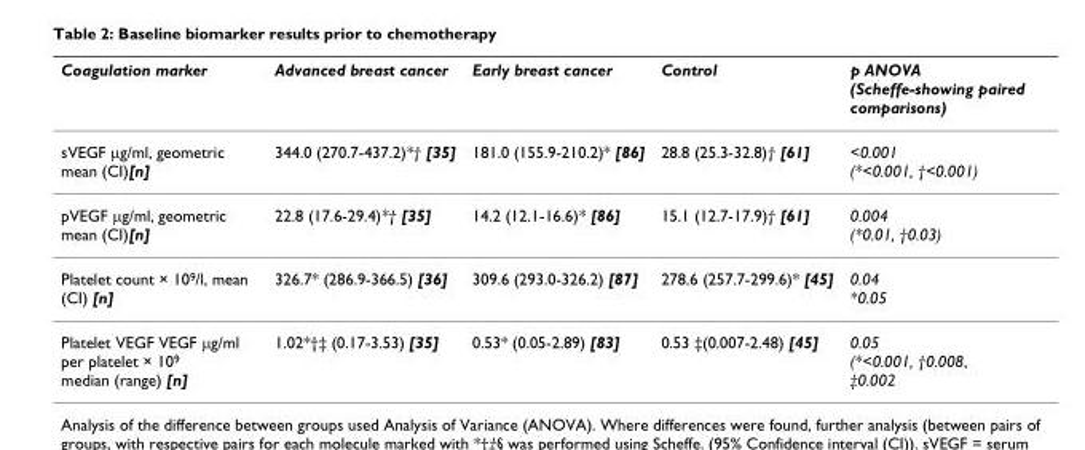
<table><thead><tr><td>Coagulation marker</td><td>Advanced breast cancer</td><td>Early breast cancer</td><td>Control</td><td>p ANOVA (Scheffe-showing paired comparisons)</td></tr></thead><tbody><tr><td>sVEGF μg/ml, geometric mean (CI)[n]</td><td>344.0 (270.7-437.2)*† [35]</td><td>181.0 (155.9-210.2)* [86]</td><td>28.8 (25.3-32.8)† [61]</td><td>&lt;0.001 (*&lt;0.001, †&lt;0.001)</td></tr><tr><td>pVEGF μg/ml, geometric mean (CI)[n]</td><td>22.8 (17.6-29.4)*† [35]</td><td>14.2 (12.1-16.6)* [86]</td><td>15.1 (12.7-17.9)† [61]</td><td>0.004 (*0.01, †0.03)</td></tr><tr><td>Platelet count × 10<sup>9</sup>/l, mean (CI) [n]</td><td>326.7* (286.9-366.5) [36]</td><td>309.6 (293.0-326.2) [87]</td><td>278.6 (257.7-299.6)* [45]</td><td>0.04 *0.05</td></tr><tr><td>Platelet VEGF VEGF μg/ml per platelet × 10<sup>9</sup> median (range) [n]</td><td>1.02*†‡ (0.17-3.53) [35]</td><td>0.53* (0.05-2.89) [83]</td><td>0.53 ‡(0.007-2.48) [45]</td><td>0.05 (*&lt;0.001, †0.008, ‡0.002</td></tr></tbody></table>